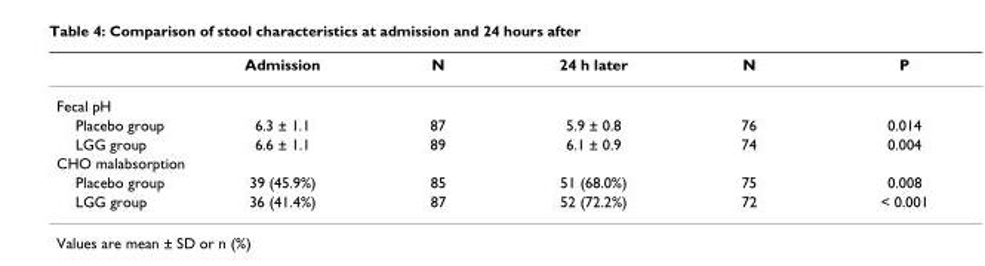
<table><thead><tr><td></td><td>Admission</td><td>N</td><td>24 h later</td><td>N</td><td>P</td></tr></thead><tbody><tr><td colspan="6">Fecal pH</td></tr><tr><td>Placebo group</td><td>6.3 ± 1.1</td><td>87</td><td>5.9 ± 0.8</td><td>76</td><td>0.014</td></tr><tr><td>LGG group</td><td>6.6 ± 1.1</td><td>89</td><td>6.1 ± 0.9</td><td>74</td><td>0.004</td></tr><tr><td colspan="6">CHO malabsorption</td></tr><tr><td>Placebo group</td><td>39 (45.9%)</td><td>85</td><td>51 (68.0%)</td><td>75</td><td>0.008</td></tr><tr><td>LGG group</td><td>36 (41.4%)</td><td>87</td><td>52 (72.2%)</td><td>72</td><td>&lt; 0.001</td></tr></tbody></table>